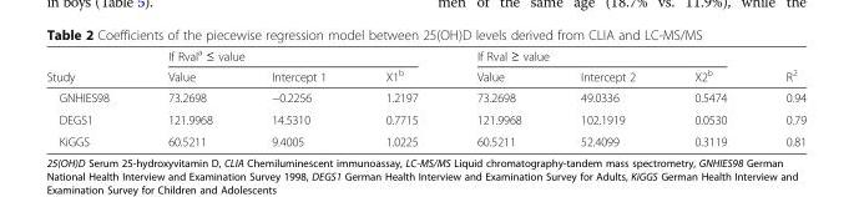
<table><thead><tr><td rowspan="2">Study</td><td colspan="3">If Rval<sup>a</sup> ≤ value</td><td colspan="3">If Rval ≥ value</td><td rowspan="2">R<sup>2</sup></td></tr><tr><td>Value</td><td>Intercept 1</td><td>X1<sup>b</sup></td><td>Value</td><td>Intercept 2</td><td>X2<sup>b</sup></td></tr></thead><tbody><tr><td>GNHIES98</td><td>73.2698</td><td>−0.2256</td><td>1.2197</td><td>73.2698</td><td>49.0336</td><td>0.5474</td><td>0.94</td></tr><tr><td>DEGS1</td><td>121.9968</td><td>14.5310</td><td>0.7715</td><td>121.9968</td><td>102.1919</td><td>0.0530</td><td>0.79</td></tr><tr><td>KiGGS</td><td>60.5211</td><td>9.4005</td><td>1.0225</td><td>60.5211</td><td>52.4099</td><td>0.3119</td><td>0.81</td></tr></tbody></table>